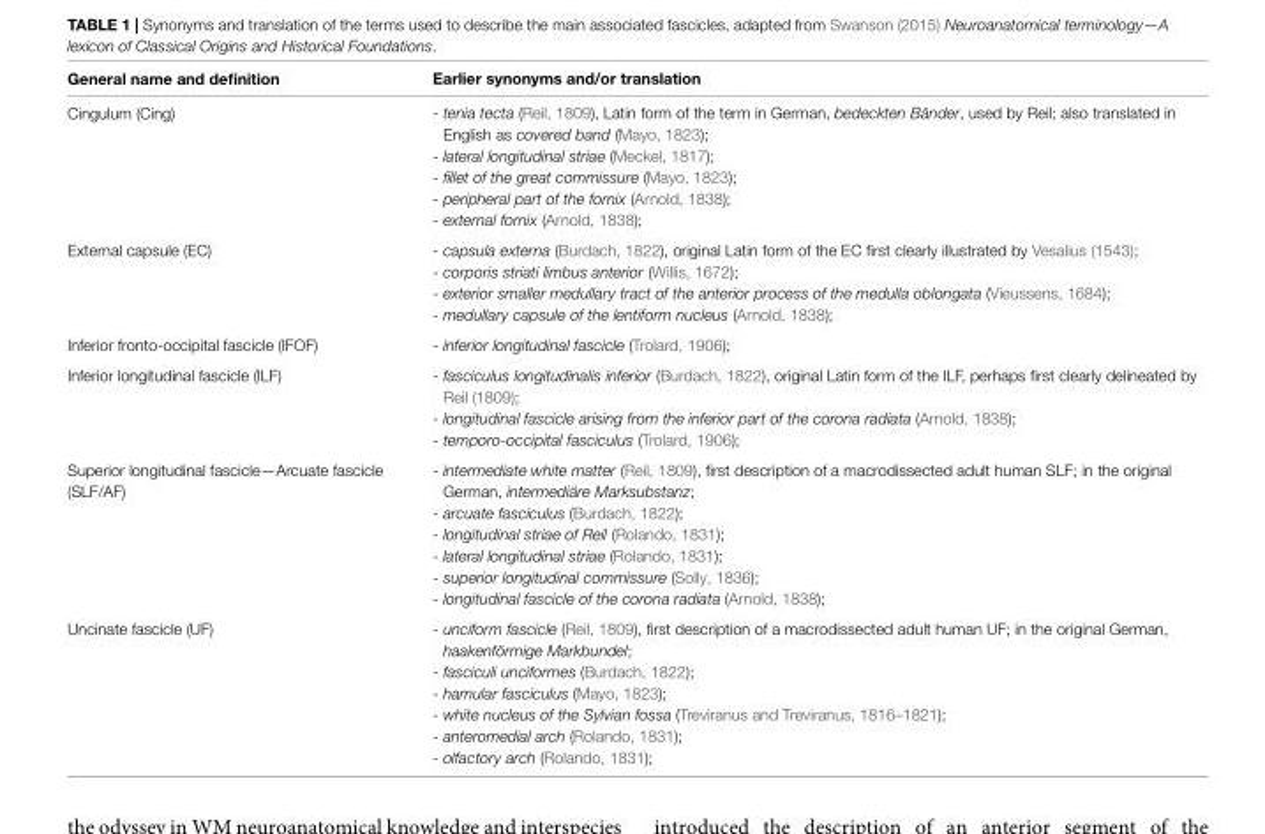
<table><thead><tr><td>General name and definition</td><td>Earlier synonyms and/or translation</td></tr></thead><tbody><tr><td>Cingulum (Cing)</td><td>- tenia tecta (Reil, 1809), Latin form of the term in German, bedeckten Bänder, used by Reil; also translated in English as covered band (Mayo, 1823); - lateral longitudinal striae (Meckel, 1817); - fillet of the great commissure (Mayo, 1823); - peripheral part of the fornix (Arnold, 1838); - external fornix (Arnold, 1838);</td></tr><tr><td>External capsule (EC)</td><td>- capsula externa (Burdach, 1822), original Latin form of the EC first clearly illustrated by Vesalius (1543); - corporis striati limbus anterior (Willis, 1672); - exterior smaller medullary tract of the anterior process of the medulla oblongata (Vieussens, 1684); - medullary capsule of the lentiform nucleus (Arnold, 1838);</td></tr><tr><td>Inferior fronto-occipital fascicle (IFOF)</td><td>- inferior longitudinal fascicle (Trolard, 1906);</td></tr><tr><td>Inferior longitudinal fascicle (ILF)</td><td>- fasciculus longitudinalis inferior (Burdach, 1822), original Latin form of the ILF, perhaps first clearly delineated by Reil (1809); - longitudinal fascicle arising from the inferior part of the corona radiata (Arnold, 1838); - temporo-occipital fasciculus (Trolard, 1906);</td></tr><tr><td>Superior longitudinal fascicle—Arcuate fascicle (SLF/AF)</td><td>- intermediate white matter (Reil, 1809), first description of a macrodissected adult human SLF; in the original German, intermediäre Marksubstanz; - arcuate fasciculus (Burdach, 1822); - longitudinal striae of Reil (Rolando, 1831); - lateral longitudinal striae (Rolando, 1831); - superior longitudinal commissure (Solly, 1836); - longitudinal fascicle of the corona radiata (Arnold, 1838);</td></tr><tr><td>Uncinate fascicle (UF)</td><td>- unciform fascicle (Reil, 1809), first description of a macrodissected adult human UF; in the original German, haakenförmige Markbundel; - fasciculi unciformes (Burdach, 1822); - hamular fasciculus (Mayo, 1823); - white nucleus of the Sylvian fossa (Treviranus and Treviranus, 1816–1821); - anteromedial arch (Rolando, 1831); - olfactory arch (Rolando, 1831);</td></tr></tbody></table>